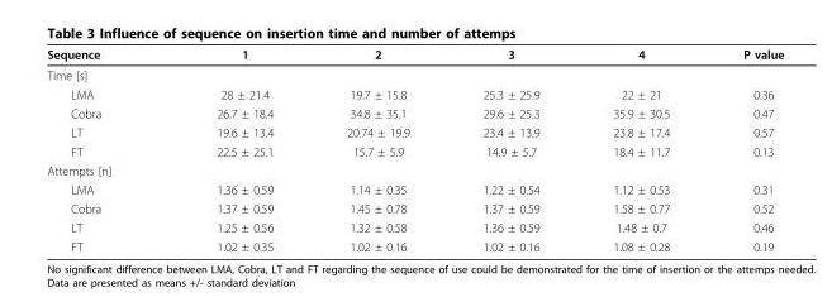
<table><thead><tr><td>Sequence</td><td>1</td><td>2</td><td>3</td><td>4</td><td>P value</td></tr></thead><tbody><tr><td colspan="6">Time [s]</td></tr><tr><td>LMA</td><td>28 ± 21.4</td><td>19.7 ± 15.8</td><td>25.3 ± 25.9</td><td>22 ± 21</td><td>0.36</td></tr><tr><td>Cobra</td><td>26.7 ± 18.4</td><td>34.8 ± 35.1</td><td>29.6 ± 25.3</td><td>35.9 ± 30.5</td><td>0.47</td></tr><tr><td>LT</td><td>19.6 ± 13.4</td><td>20.74 ± 19.9</td><td>23.4 ± 13.9</td><td>23.8 ± 17.4</td><td>0.57</td></tr><tr><td>FT</td><td>22.5 ± 25.1</td><td>15.7 ± 5.9</td><td>14.9 ± 5.7</td><td>18.4 ± 11.7</td><td>0.13</td></tr><tr><td colspan="6">Attempts [n]</td></tr><tr><td>LMA</td><td>1.36 ± 0.59</td><td>1.14 ± 0.35</td><td>1.22 ± 0.54</td><td>1.12 ± 0.53</td><td>0.31</td></tr><tr><td>Cobra</td><td>1.37 ± 0.59</td><td>1.45 ± 0.78</td><td>1.37 ± 0.59</td><td>1.58 ± 0.77</td><td>0.52</td></tr><tr><td>LT</td><td>1.25 ± 0.56</td><td>1.32 ± 0.58</td><td>1.36 ± 0.59</td><td>1.48 ± 0.7</td><td>0.46</td></tr><tr><td>FT</td><td>1.02 ± 0.35</td><td>1.02 ± 0.16</td><td>1.02 ± 0.16</td><td>1.08 ± 0.28</td><td>0.19</td></tr></tbody></table>